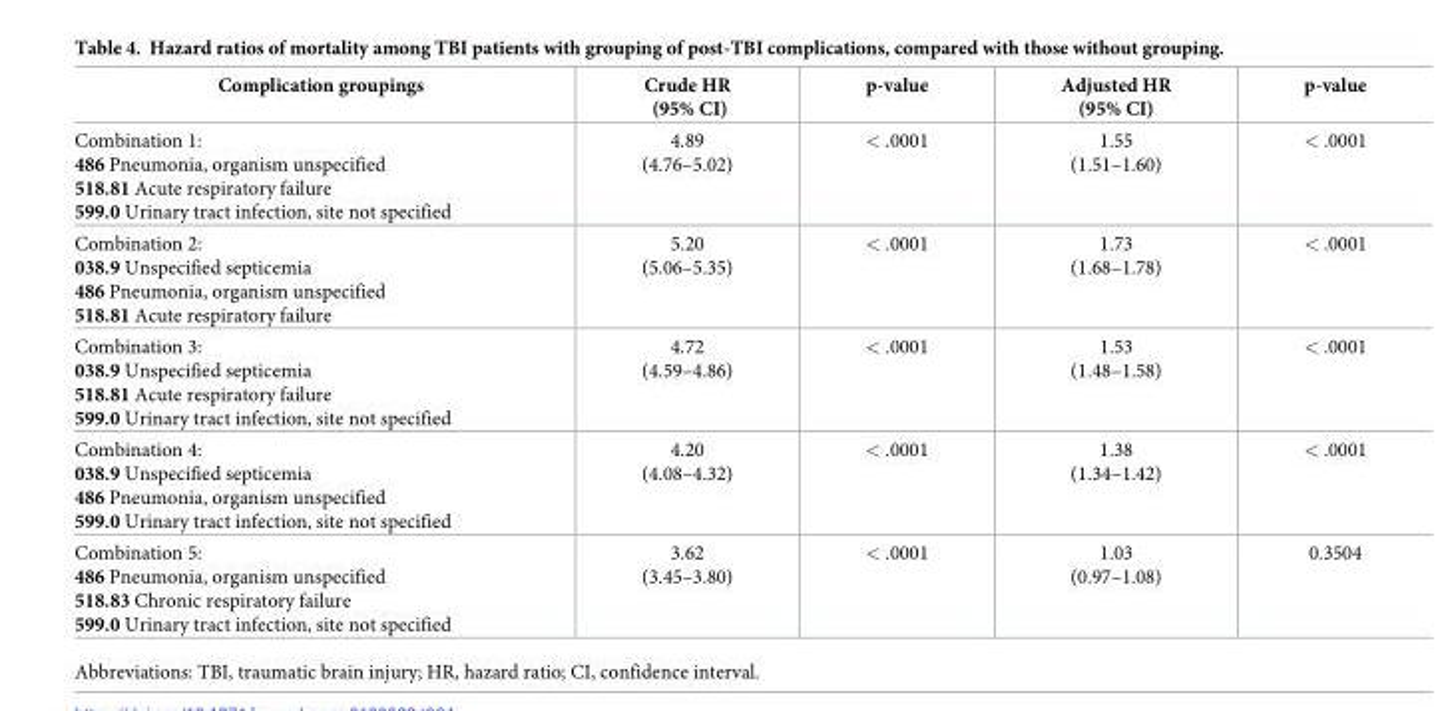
<table><thead><tr><td>Complication groupings</td><td>Crude HR (95% CI)</td><td>p-value</td><td>Adjusted HR (95% CI)</td><td>p-value</td></tr></thead><tbody><tr><td>Combination 1: 486 Pneumonia, organism unspecified 518.81 Acute respiratory failure 599.0 Urinary tract infection, site not specified</td><td>4.89 (4.76–5.02)</td><td>&lt; .0001</td><td>1.55 (1.51–1.60)</td><td>&lt; .0001</td></tr><tr><td>Combination 2: 038.9 Unspecified septicemia 486 Pneumonia, organism unspecified 518.81 Acute respiratory failure</td><td>5.20 (5.06–5.35)</td><td>&lt; .0001</td><td>1.73 (1.68–1.78)</td><td>&lt; .0001</td></tr><tr><td>Combination 3: 038.9 Unspecified septicemia 518.81 Acute respiratory failure 599.0 Urinary tract infection, site not specified</td><td>4.72 (4.59–4.86)</td><td>&lt; .0001</td><td>1.53 (1.48–1.58)</td><td>&lt; .0001</td></tr><tr><td>Combination 4: 038.9 Unspecified septicemia 486 Pneumonia, organism unspecified 599.0 Urinary tract infection, site not specified</td><td>4.20 (4.08–4.32)</td><td>&lt; .0001</td><td>1.38 (1.34–1.42)</td><td>&lt; .0001</td></tr><tr><td>Combination 5: 486 Pneumonia, organism unspecified 518.83 Chronic respiratory failure 599.0 Urinary tract infection, site not specified</td><td>3.62 (3.45–3.80)</td><td>&lt; .0001</td><td>1.03 (0.97–1.08)</td><td>0.3504</td></tr></tbody></table>